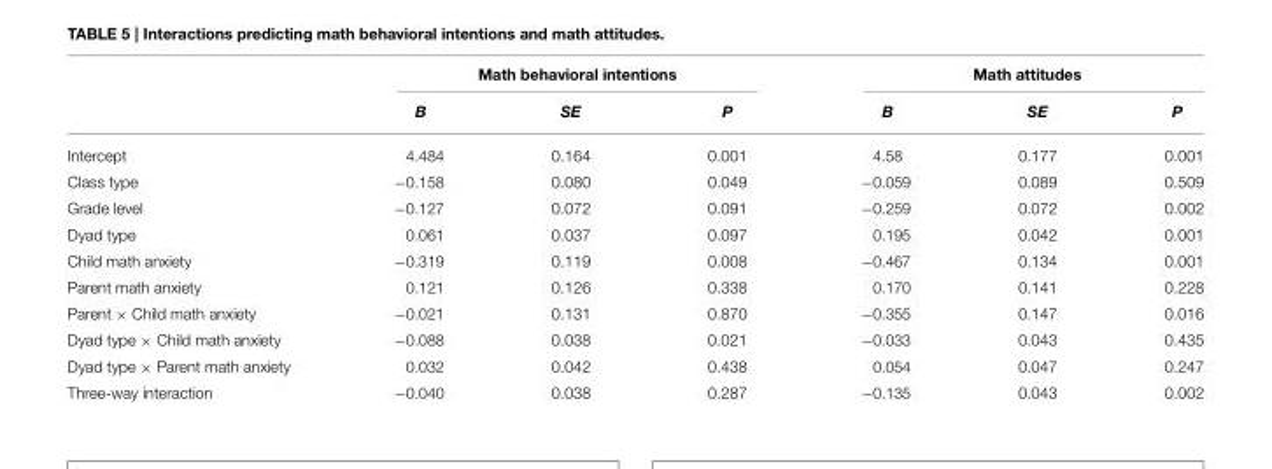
<table><thead><tr><td rowspan="2"></td><td colspan="3">Math behavioral intentions</td><td colspan="3">Math attitudes</td></tr><tr><td>B</td><td>SE</td><td>P</td><td>B</td><td>SE</td><td>P</td></tr></thead><tbody><tr><td>Intercept</td><td>4.484</td><td>0.164</td><td>0.001</td><td>4.58</td><td>0.177</td><td>0.001</td></tr><tr><td>Class type</td><td>−0.158</td><td>0.080</td><td>0.049</td><td>−0.059</td><td>0.089</td><td>0.509</td></tr><tr><td>Grade level</td><td>−0.127</td><td>0.072</td><td>0.091</td><td>−0.259</td><td>0.072</td><td>0.002</td></tr><tr><td>Dyad type</td><td>0.061</td><td>0.037</td><td>0.097</td><td>0.195</td><td>0.042</td><td>0.001</td></tr><tr><td>Child math anxiety</td><td>−0.319</td><td>0.119</td><td>0.008</td><td>−0.467</td><td>0.134</td><td>0.001</td></tr><tr><td>Parent math anxiety</td><td>0.121</td><td>0.126</td><td>0.338</td><td>0.170</td><td>0.141</td><td>0.228</td></tr><tr><td>Parent × Child math anxiety</td><td>−0.021</td><td>0.131</td><td>0.870</td><td>−0.355</td><td>0.147</td><td>0.016</td></tr><tr><td>Dyad type × Child math anxiety</td><td>−0.088</td><td>0.038</td><td>0.021</td><td>−0.033</td><td>0.043</td><td>0.435</td></tr><tr><td>Dyad type × Parent math anxiety</td><td>0.032</td><td>0.042</td><td>0.438</td><td>0.054</td><td>0.047</td><td>0.247</td></tr><tr><td>Three-way interaction</td><td>−0.040</td><td>0.038</td><td>0.287</td><td>−0.135</td><td>0.043</td><td>0.002</td></tr></tbody></table>